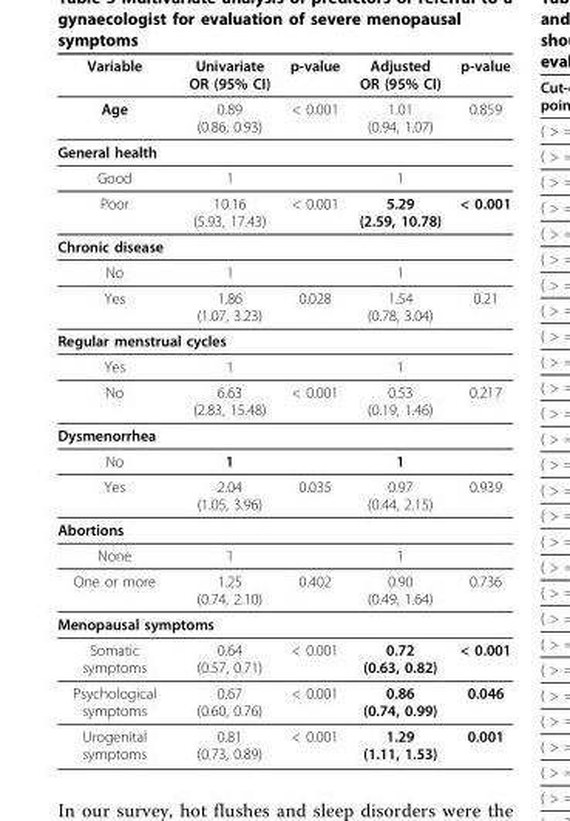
<table><thead><tr><td>Variable</td><td>Univariate OR (95% CI)</td><td>p-value</td><td>Adjusted OR (95% CI)</td><td>p-value</td></tr></thead><tbody><tr><td>Age</td><td>0.89 (0.86, 0.93)</td><td>&lt; 0.001</td><td>1.01 (0.94, 1.07)</td><td>0.859</td></tr><tr><td colspan="5">General health</td></tr><tr><td>Good</td><td>1</td><td></td><td>1</td><td></td></tr><tr><td>Poor</td><td>10.16 (5.93, 17.43)</td><td>&lt; 0.001</td><td>5.29 (2.59, 10.78)</td><td>&lt; 0.001</td></tr><tr><td colspan="5">Chronic disease</td></tr><tr><td>No</td><td>1</td><td></td><td>1</td><td></td></tr><tr><td>Yes</td><td>1.86 (1.07, 3.23)</td><td>0.028</td><td>1.54 (0.78, 3.04)</td><td>0.21</td></tr><tr><td colspan="5">Regular menstrual cycles</td></tr><tr><td>Yes</td><td>1</td><td></td><td>1</td><td></td></tr><tr><td>No</td><td>6.63 (2.83, 15.48)</td><td>&lt; 0.001</td><td>0.53 (0.19, 1.46)</td><td>0.217</td></tr><tr><td colspan="5">Dysmenorrhea</td></tr><tr><td>No</td><td>1</td><td></td><td>1</td><td></td></tr><tr><td>Yes</td><td>2.04 (1.05, 3.96)</td><td>0.035</td><td>0.97 (0.44, 2.15)</td><td>0.939</td></tr><tr><td colspan="5">Abortions</td></tr><tr><td>None</td><td>1</td><td></td><td>1</td><td></td></tr><tr><td>One or more</td><td>1.25 (0.74, 2.10)</td><td>0.402</td><td>0.90 (0.49, 1.64)</td><td>0.736</td></tr><tr><td colspan="5">Menopausal symptoms</td></tr><tr><td>Somatic symptoms</td><td>0.64 (0.57, 0.71)</td><td>&lt; 0.001</td><td>0.72 (0.63, 0.82)</td><td>&lt; 0.001</td></tr><tr><td>Psychological symptoms</td><td>0.67 (0.60, 0.76)</td><td>&lt; 0.001</td><td>0.86 (0.74, 0.99)</td><td>0.046</td></tr><tr><td>Urogenital symptoms</td><td>0.81 (0.73, 0.89)</td><td>&lt; 0.001</td><td>1.29 (1.11, 1.53)</td><td>0.001</td></tr></tbody></table>